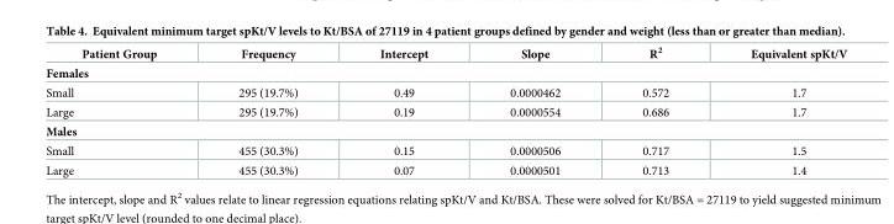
<table><thead><tr><td>Patient Group</td><td>Frequency</td><td>Intercept</td><td>Slope</td><td>R<sup>2</sup></td><td>Equivalent spKt/V</td></tr></thead><tbody><tr><td colspan="6">Females</td></tr><tr><td>Small</td><td>295 (19.7%)</td><td>0.49</td><td>0.0000462</td><td>0.572</td><td>1.7</td></tr><tr><td>Large</td><td>295 (19.7%)</td><td>0.19</td><td>0.0000554</td><td>0.686</td><td>1.7</td></tr><tr><td colspan="6">Males</td></tr><tr><td>Small</td><td>455 (30.3%)</td><td>0.15</td><td>0.0000506</td><td>0.717</td><td>1.5</td></tr><tr><td>Large</td><td>455 (30.3%)</td><td>0.07</td><td>0.0000501</td><td>0.713</td><td>1.4</td></tr></tbody></table>